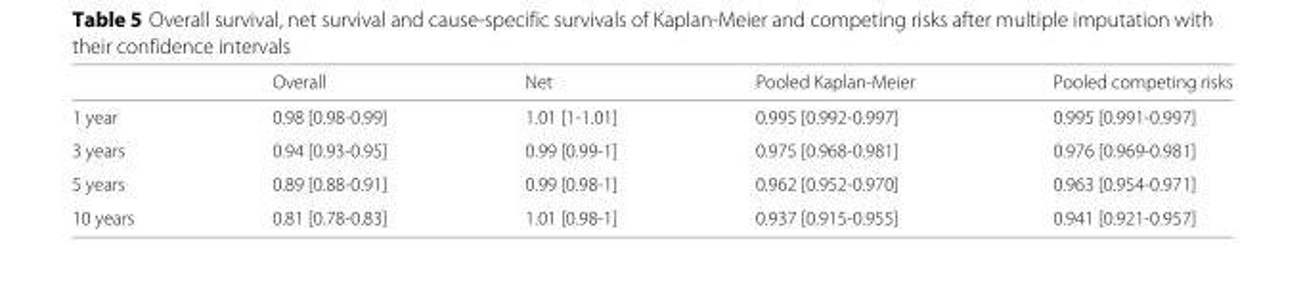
<table><thead><tr><td></td><td>Overall</td><td>Net</td><td>Pooled Kaplan-Meier</td><td>Pooled competing risks</td></tr></thead><tbody><tr><td>1 year</td><td>0.98 [0.98-0.99]</td><td>1.01 [1-1.01]</td><td>0.995 [0.992-0.997]</td><td>0.995 [0.991-0.997]</td></tr><tr><td>3 years</td><td>0.94 [0.93-0.95]</td><td>0.99 [0.99-1]</td><td>0.975 [0.968-0.981]</td><td>0.976 [0.969-0.981]</td></tr><tr><td>5 years</td><td>0.89 [0.88-0.91]</td><td>0.99 [0.98-1]</td><td>0.962 [0.952-0.970]</td><td>0.963 [0.954-0.971]</td></tr><tr><td>10 years</td><td>0.81 [0.78-0.83]</td><td>1.01 [0.98-1]</td><td>0.937 [0.915-0.955]</td><td>0.941 [0.921-0.957]</td></tr></tbody></table>